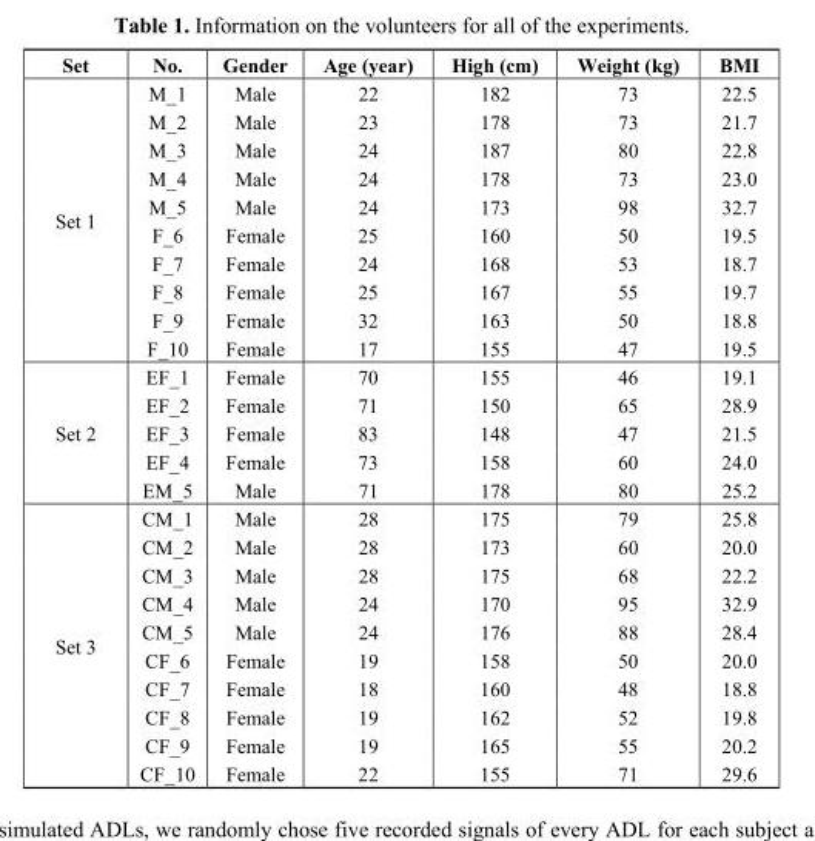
<table><thead><tr><td>Set</td><td>No.</td><td>Gender</td><td>Age (year)</td><td>High (cm)</td><td>Weight (kg)</td><td>BMI</td></tr></thead><tbody><tr><td rowspan="10">Set 1</td><td>M_1</td><td>Male</td><td>22</td><td>182</td><td>73</td><td>22.5</td></tr><tr><td>M_2</td><td>Male</td><td>23</td><td>178</td><td>73</td><td>21.7</td></tr><tr><td>M_3</td><td>Male</td><td>24</td><td>187</td><td>80</td><td>22.8</td></tr><tr><td>M_4</td><td>Male</td><td>24</td><td>178</td><td>73</td><td>23.0</td></tr><tr><td>M_5</td><td>Male</td><td>24</td><td>173</td><td>98</td><td>32.7</td></tr><tr><td>F_6</td><td>Female</td><td>25</td><td>160</td><td>50</td><td>19.5</td></tr><tr><td>F_7</td><td>Female</td><td>24</td><td>168</td><td>53</td><td>18.7</td></tr><tr><td>F_8</td><td>Female</td><td>25</td><td>167</td><td>55</td><td>19.7</td></tr><tr><td>F_9</td><td>Female</td><td>32</td><td>163</td><td>50</td><td>18.8</td></tr><tr><td>F_10</td><td>Female</td><td>17</td><td>155</td><td>47</td><td>19.5</td></tr><tr><td rowspan="5">Set 2</td><td>EF_1</td><td>Female</td><td>70</td><td>155</td><td>46</td><td>19.1</td></tr><tr><td>EF_2</td><td>Female</td><td>71</td><td>150</td><td>65</td><td>28.9</td></tr><tr><td>EF_3</td><td>Female</td><td>83</td><td>148</td><td>47</td><td>21.5</td></tr><tr><td>EF_4</td><td>Female</td><td>73</td><td>158</td><td>60</td><td>24.0</td></tr><tr><td>EM_5</td><td>Male</td><td>71</td><td>178</td><td>80</td><td>25.2</td></tr><tr><td rowspan="10">Set 3</td><td>CM_1</td><td>Male</td><td>28</td><td>175</td><td>79</td><td>25.8</td></tr><tr><td>CM_2</td><td>Male</td><td>28</td><td>173</td><td>60</td><td>20.0</td></tr><tr><td>CM_3</td><td>Male</td><td>28</td><td>175</td><td>68</td><td>22.2</td></tr><tr><td>CM_4</td><td>Male</td><td>24</td><td>170</td><td>95</td><td>32.9</td></tr><tr><td>CM_5</td><td>Male</td><td>24</td><td>176</td><td>88</td><td>28.4</td></tr><tr><td>CF_6</td><td>Female</td><td>19</td><td>158</td><td>50</td><td>20.0</td></tr><tr><td>CF_7</td><td>Female</td><td>18</td><td>160</td><td>48</td><td>18.8</td></tr><tr><td>CF_8</td><td>Female</td><td>19</td><td>162</td><td>52</td><td>19.8</td></tr><tr><td>CF_9</td><td>Female</td><td>19</td><td>165</td><td>55</td><td>20.2</td></tr><tr><td>CF_10</td><td>Female</td><td>22</td><td>155</td><td>71</td><td>29.6</td></tr></tbody></table>